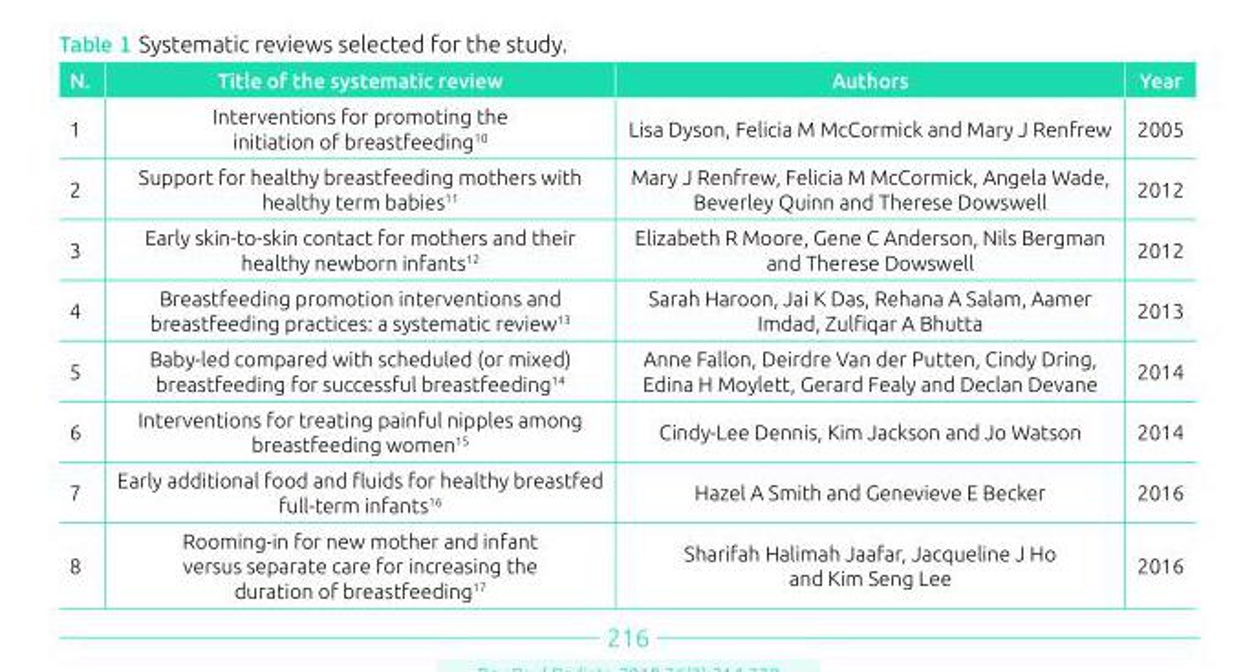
<table><thead><tr><td>N.</td><td>Title of the systematic review</td><td>Authors</td><td>Year</td></tr></thead><tbody><tr><td>1</td><td>Interventions for promoting the initiation of breastfeeding<sup>10</sup></td><td>Lisa Dyson, Felicia M McCormick and Mary J Renfrew</td><td>2005</td></tr><tr><td>2</td><td>Support for healthy breastfeeding mothers with healthy term babies<sup>11</sup></td><td>Mary J Renfrew, Felicia M McCormick, Angela Wade, Beverley Quinn and Therese Dowswell</td><td>2012</td></tr><tr><td>3</td><td>Early skin-to-skin contact for mothers and their healthy newborn infants<sup>12</sup></td><td>Elizabeth R Moore, Gene C Anderson, Nils Bergman and Therese Dowswell</td><td>2012</td></tr><tr><td>4</td><td>Breastfeeding promotion interventions and breastfeeding practices: a systematic review<sup>13</sup></td><td>Sarah Haroon, Jai K Das, Rehana A Salam, Aamer Imdad, Zulfiqar A Bhutta</td><td>2013</td></tr><tr><td>5</td><td>Baby-led compared with scheduled (or mixed) breastfeeding for successful breastfeeding<sup>14</sup></td><td>Anne Fallon, Deirdre Van der Putten, Cindy Dring, Edina H Moylett, Gerard Fealy and Declan Devane</td><td>2014</td></tr><tr><td>6</td><td>Interventions for treating painful nipples among breastfeeding women<sup>15</sup></td><td>Cindy-Lee Dennis, Kim Jackson and Jo Watson</td><td>2014</td></tr><tr><td>7</td><td>Early additional food and fluids for healthy breastfed full-term infants<sup>16</sup></td><td>Hazel A Smith and Genevieve E Becker</td><td>2016</td></tr><tr><td>8</td><td>Rooming-in for new mother and infant versus separate care for increasing the duration of breastfeeding<sup>17</sup></td><td>Sharifah Halimah Jaafar, Jacqueline J Ho and Kim Seng Lee</td><td>2016</td></tr></tbody></table>